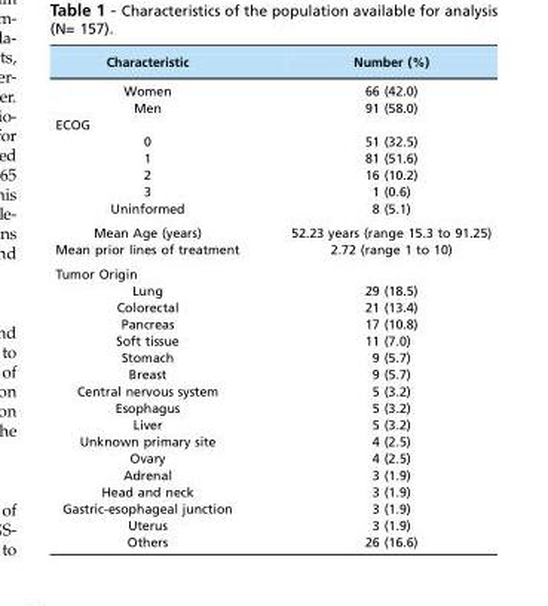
<table><thead><tr><td>Characteristic</td><td>Number (%)</td></tr></thead><tbody><tr><td>Women</td><td>66 (42.0)</td></tr><tr><td>Men</td><td>91 (58.0)</td></tr><tr><td colspan="2">ECOG</td></tr><tr><td>0</td><td>51 (32.5)</td></tr><tr><td>1</td><td>81 (51.6)</td></tr><tr><td>2</td><td>16 (10.2)</td></tr><tr><td>3</td><td>1 (0.6)</td></tr><tr><td>Uninformed</td><td>8 (5.1)</td></tr><tr><td>Mean Age (years)</td><td>52.23 years (range 15.3 to 91.25)</td></tr><tr><td>Mean prior lines of treatment</td><td>2.72 (range 1 to 10)</td></tr><tr><td colspan="2">Tumor Origin</td></tr><tr><td>Lung</td><td>29 (18.5)</td></tr><tr><td>Colorectal</td><td>21 (13.4)</td></tr><tr><td>Pancreas</td><td>17 (10.8)</td></tr><tr><td>Soft tissue</td><td>11 (7.0)</td></tr><tr><td>Stomach</td><td>9 (5.7)</td></tr><tr><td>Breast</td><td>9 (5.7)</td></tr><tr><td>Central nervous system</td><td>5 (3.2)</td></tr><tr><td>Esophagus</td><td>5 (3.2)</td></tr><tr><td>Liver</td><td>5 (3.2)</td></tr><tr><td>Unknown primary site</td><td>4 (2.5)</td></tr><tr><td>Ovary</td><td>4 (2.5)</td></tr><tr><td>Adrenal</td><td>3 (1.9)</td></tr><tr><td>Head and neck</td><td>3 (1.9)</td></tr><tr><td>Gastric-esophageal junction</td><td>3 (1.9)</td></tr><tr><td>Uterus</td><td>3 (1.9)</td></tr><tr><td>Others</td><td>26 (16.6)</td></tr></tbody></table>